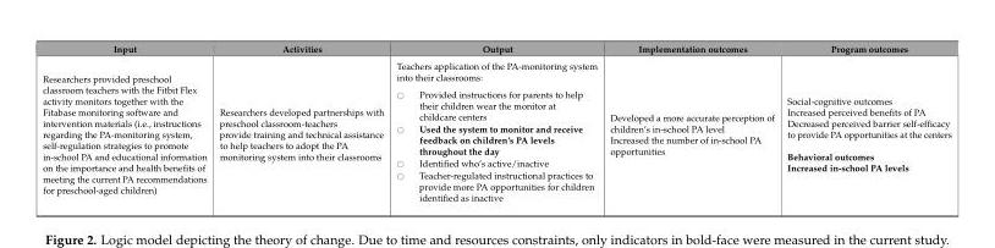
<table><thead><tr><td>Input</td><td>Activities</td><td>Output</td><td>Implementation outcomes</td><td>Program outcomes</td></tr></thead><tbody><tr><td>Researchers provided preschool classroom teachers with the Fitbit Flex activity monitors together with the Fitabase monitoring software and intervention materials (i.e., instructions regarding the PA-monitoring system, self-regulation strategies to promote in-school PA and educational information on the importance and health benefits of meeting the current PA recommendations for preschool-aged children)</td><td>Researchers developed partnerships with preschool classroom-teachers provide training and technical assistance to help teachers to adopt the PA monitoring system into their classrooms</td><td>Teachers application of the PA-monitoring system into their classrooms: ○ Provided instructions for parents to help their children wear the monitor at childcare centers ○ Used the system to monitor and receive feedback on children’s PA levels throughout the day ○ Identified who’s active/inactive ○ Teacher-regulated instructional practices to provide more PA opportunities for children identified as inactive</td><td>Developed a more accurate perception of children’s in-school PA level Increased the number of in-school PA opportunities</td><td>Social-cognitive outcomes Increased perceived benefits of PA Decreased perceived barrier self-efficacy to provide PA opportunities at the centers Behavioral outcomes Increased in-school PA levels</td></tr></tbody></table>